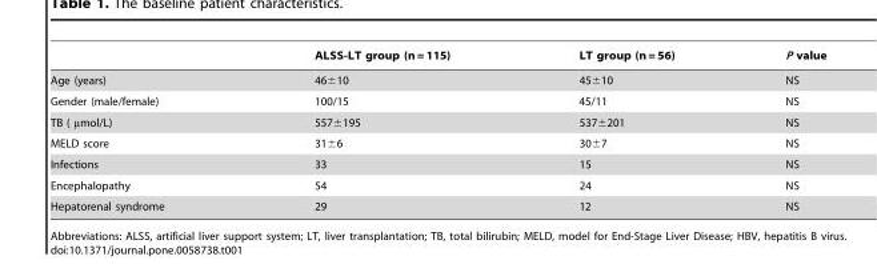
<table><thead><tr><td></td><td>ALSS-LT group (n = 115)</td><td>LT group (n = 56)</td><td>P value</td></tr></thead><tbody><tr><td>Age (years)</td><td>46±10</td><td>45±10</td><td>NS</td></tr><tr><td>Gender (male/female)</td><td>100/15</td><td>45/11</td><td>NS</td></tr><tr><td>TB ( µmol/L)</td><td>557±195</td><td>537±201</td><td>NS</td></tr><tr><td>MELD score</td><td>31±6</td><td>30±7</td><td>NS</td></tr><tr><td>Infections</td><td>33</td><td>15</td><td>NS</td></tr><tr><td>Encephalopathy</td><td>54</td><td>24</td><td>NS</td></tr><tr><td>Hepatorenal syndrome</td><td>29</td><td>12</td><td>NS</td></tr></tbody></table>